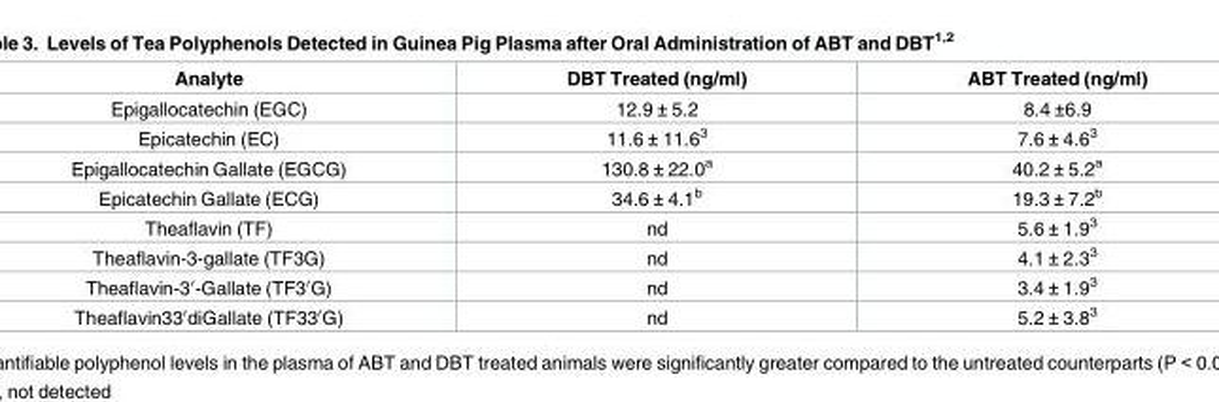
<table><thead><tr><td>Analyte</td><td>DBT Treated (ng/ml)</td><td>ABT Treated (ng/ml)</td></tr></thead><tbody><tr><td>Epigallocatechin (EGC)</td><td>12.9 ± 5.2</td><td>8.4 ±6.9</td></tr><tr><td>Epicatechin (EC)</td><td>11.6 ± 11.6<sup>3</sup></td><td>7.6 ± 4.6<sup>3</sup></td></tr><tr><td>Epigallocatechin Gallate (EGCG)</td><td>130.8 ± 22.0<sup>a</sup></td><td>40.2 ± 5.2<sup>a</sup></td></tr><tr><td>Epicatechin Gallate (ECG)</td><td>34.6 ± 4.1<sup>b</sup></td><td>19.3 ± 7.2<sup>b</sup></td></tr><tr><td>Theaflavin (TF)</td><td>nd</td><td>5.6 ± 1.9<sup>3</sup></td></tr><tr><td>Theaflavin-3-gallate (TF3G)</td><td>nd</td><td>4.1 ± 2.3<sup>3</sup></td></tr><tr><td>Theaflavin-3′-Gallate (TF3′G)</td><td>nd</td><td>3.4 ± 1.9<sup>3</sup></td></tr><tr><td>Theaflavin33′diGallate (TF33′G)</td><td>nd</td><td>5.2 ± 3.8<sup>3</sup></td></tr></tbody></table>